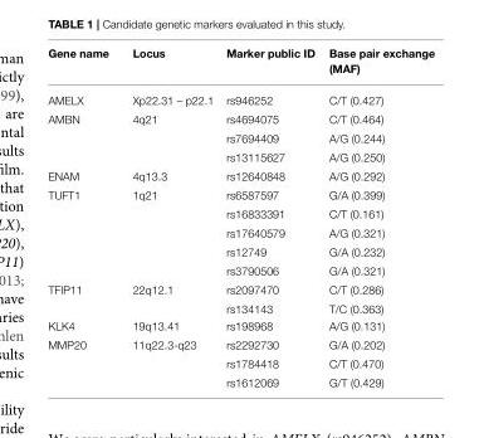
<table><thead><tr><td>Gene name</td><td>Locus</td><td>Marker public ID</td><td>Base pair exchange (MAF)</td></tr></thead><tbody><tr><td>AMELX</td><td>Xp22.31 – p22.1</td><td>rs946252</td><td>C/T (0.427)</td></tr><tr><td rowspan="3">AMBN</td><td>4q21</td><td>rs4694075</td><td>C/T (0.464)</td></tr><tr><td></td><td>rs7694409</td><td>A/G (0.244)</td></tr><tr><td></td><td>rs13115627</td><td>A/G (0.250)</td></tr><tr><td>ENAM</td><td>4q13.3</td><td>rs12640848</td><td>A/G (0.292)</td></tr><tr><td rowspan="5">TUFT1</td><td>1q21</td><td>rs6587597</td><td>G/A (0.399)</td></tr><tr><td></td><td>rs16833391</td><td>C/T (0.161)</td></tr><tr><td></td><td>rs17640579</td><td>A/G (0.321)</td></tr><tr><td></td><td>rs12749</td><td>G/A (0.232)</td></tr><tr><td></td><td>rs3790506</td><td>G/A (0.321)</td></tr><tr><td rowspan="2">TFIP11</td><td>22q12.1</td><td>rs2097470</td><td>C/T (0.286)</td></tr><tr><td></td><td>rs134143</td><td>T/C (0.363)</td></tr><tr><td>KLK4</td><td>19q13.41</td><td>rs198968</td><td>A/G (0.131)</td></tr><tr><td rowspan="3">MMP20</td><td>11q22.3-q23</td><td>rs2292730</td><td>G/A (0.202)</td></tr><tr><td></td><td>rs1784418</td><td>C/T (0.470)</td></tr><tr><td></td><td>rs1612069</td><td>G/T (0.429)</td></tr></tbody></table>